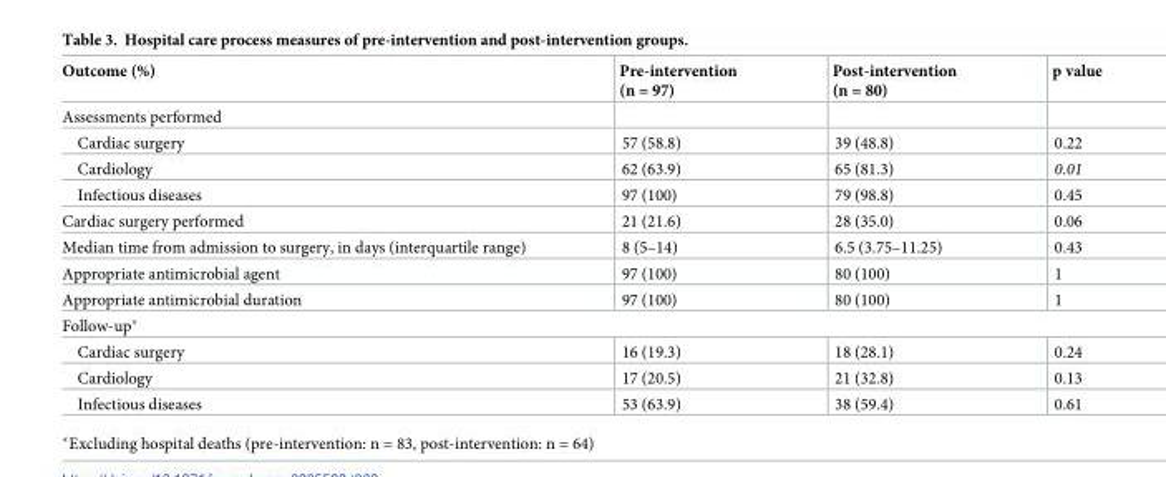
<table><thead><tr><td>Outcome (%)</td><td>Pre-intervention (n = 97)</td><td>Post-intervention (n = 80)</td><td>p value</td></tr></thead><tbody><tr><td colspan="4">Assessments performed</td></tr><tr><td>Cardiac surgery</td><td>57 (58.8)</td><td>39 (48.8)</td><td>0.22</td></tr><tr><td>Cardiology</td><td>62 (63.9)</td><td>65 (81.3)</td><td>0.01</td></tr><tr><td>Infectious diseases</td><td>97 (100)</td><td>79 (98.8)</td><td>0.45</td></tr><tr><td>Cardiac surgery performed</td><td>21 (21.6)</td><td>28 (35.0)</td><td>0.06</td></tr><tr><td>Median time from admission to surgery, in days (interquartile range)</td><td>8 (5–14)</td><td>6.5 (3.75–11.25)</td><td>0.43</td></tr><tr><td>Appropriate antimicrobial agent</td><td>97 (100)</td><td>80 (100)</td><td>1</td></tr><tr><td>Appropriate antimicrobial duration</td><td>97 (100)</td><td>80 (100)</td><td>1</td></tr><tr><td colspan="4">Follow-up*</td></tr><tr><td>Cardiac surgery</td><td>16 (19.3)</td><td>18 (28.1)</td><td>0.24</td></tr><tr><td>Cardiology</td><td>17 (20.5)</td><td>21 (32.8)</td><td>0.13</td></tr><tr><td>Infectious diseases</td><td>53 (63.9)</td><td>38 (59.4)</td><td>0.61</td></tr></tbody></table>